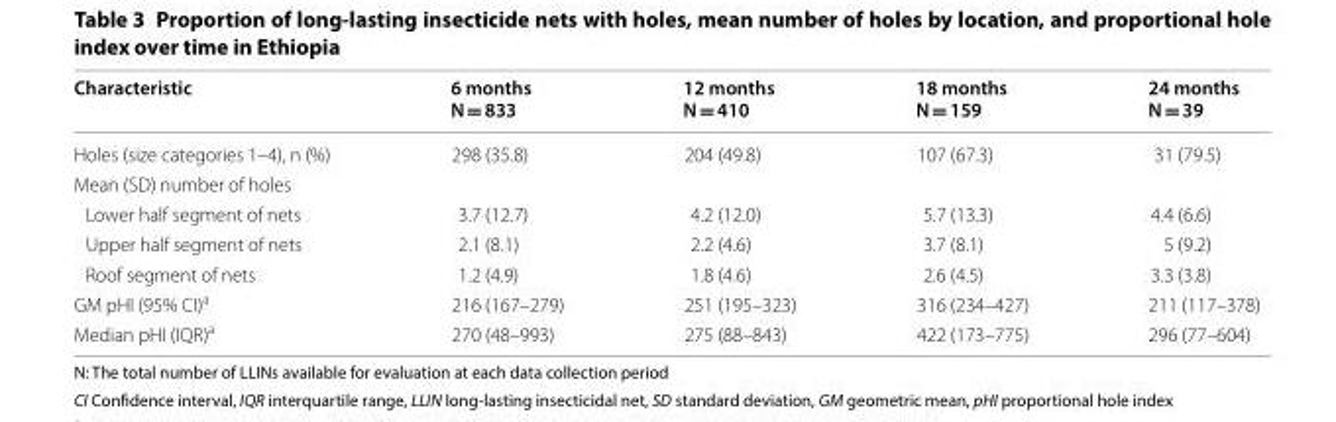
<table><thead><tr><td>Characteristic</td><td>6 months N = 833</td><td>12 months N = 410</td><td>18 months N = 159</td><td>24 months N = 39</td></tr></thead><tbody><tr><td>Holes (size categories 1–4), n (%)</td><td>298 (35.8)</td><td>204 (49.8)</td><td>107 (67.3)</td><td>31 (79.5)</td></tr><tr><td colspan="5">Mean (SD) number of holes</td></tr><tr><td>Lower half segment of nets</td><td>3.7 (12.7)</td><td>4.2 (12.0)</td><td>5.7 (13.3)</td><td>4.4 (6.6)</td></tr><tr><td>Upper half segment of nets</td><td>2.1 (8.1)</td><td>2.2 (4.6)</td><td>3.7 (8.1)</td><td>5 (9.2)</td></tr><tr><td>Roof segment of nets</td><td>1.2 (4.9)</td><td>1.8 (4.6)</td><td>2.6 (4.5)</td><td>3.3 (3.8)</td></tr><tr><td>GM pHI (95% CI)<sup>a</sup></td><td>216 (167–279)</td><td>251 (195–323)</td><td>316 (234–427)</td><td>211 (117–378)</td></tr><tr><td>Median pHI (IQR)<sup>a</sup></td><td>270 (48–993)</td><td>275 (88–843)</td><td>422 (173–775)</td><td>296 (77–604)</td></tr></tbody></table>